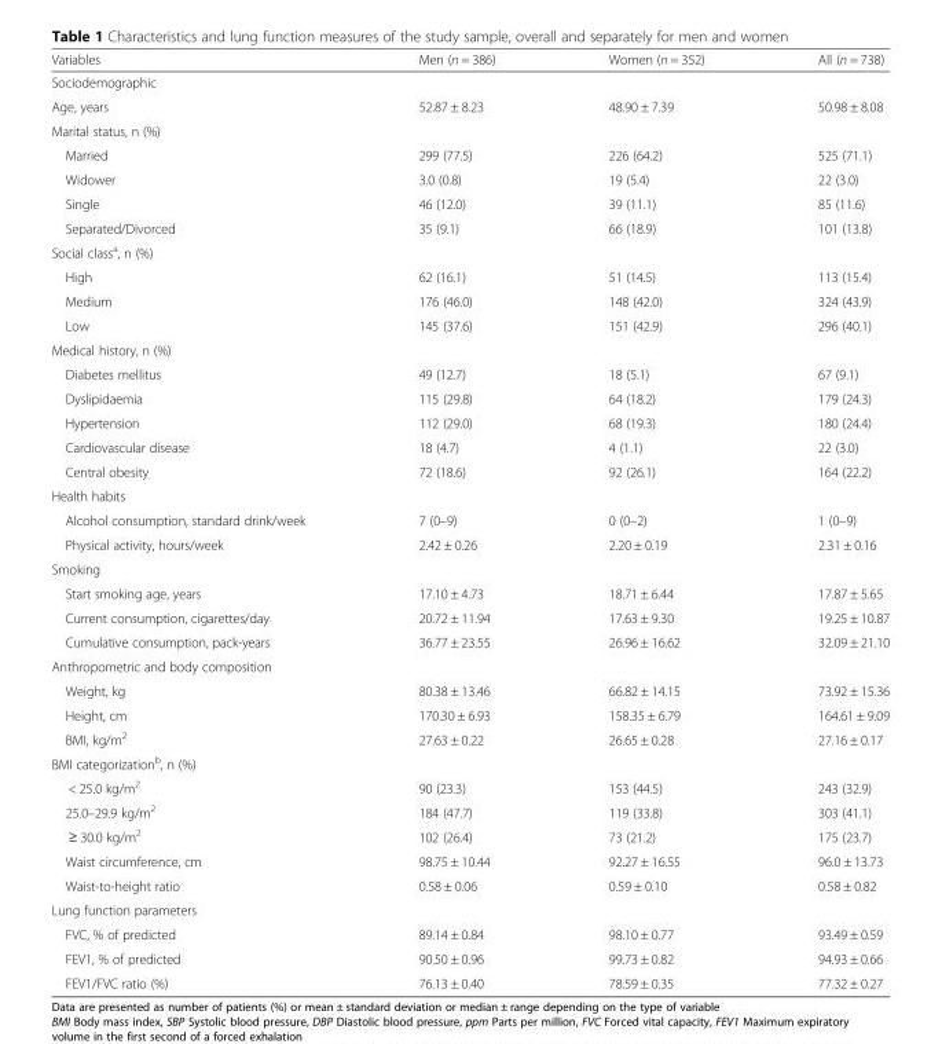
<table><thead><tr><td>Variables</td><td>Men (n = 386)</td><td>Women (n = 352)</td><td>All (n = 738)</td></tr></thead><tbody><tr><td colspan="4">Sociodemographic</td></tr><tr><td>Age, years</td><td>52.87 ± 8.23</td><td>48.90 ± 7.39</td><td>50.98 ± 8.08</td></tr><tr><td colspan="4">Marital status, n (%)</td></tr><tr><td>Married</td><td>299 (77.5)</td><td>226 (64.2)</td><td>525 (71.1)</td></tr><tr><td>Widower</td><td>3.0 (0.8)</td><td>19 (5.4)</td><td>22 (3.0)</td></tr><tr><td>Single</td><td>46 (12.0)</td><td>39 (11.1)</td><td>85 (11.6)</td></tr><tr><td>Separated/Divorced</td><td>35 (9.1)</td><td>66 (18.9)</td><td>101 (13.8)</td></tr><tr><td colspan="4">Social class<sup>a</sup>, n (%)</td></tr><tr><td>High</td><td>62 (16.1)</td><td>51 (14.5)</td><td>113 (15.4)</td></tr><tr><td>Medium</td><td>176 (46.0)</td><td>148 (42.0)</td><td>324 (43.9)</td></tr><tr><td>Low</td><td>145 (37.6)</td><td>151 (42.9)</td><td>296 (40.1)</td></tr><tr><td colspan="4">Medical history, n (%)</td></tr><tr><td>Diabetes mellitus</td><td>49 (12.7)</td><td>18 (5.1)</td><td>67 (9.1)</td></tr><tr><td>Dyslipidaemia</td><td>115 (29.8)</td><td>64 (18.2)</td><td>179 (24.3)</td></tr><tr><td>Hypertension</td><td>112 (29.0)</td><td>68 (19.3)</td><td>180 (24.4)</td></tr><tr><td>Cardiovascular disease</td><td>18 (4.7)</td><td>4 (1.1)</td><td>22 (3.0)</td></tr><tr><td>Central obesity</td><td>72 (18.6)</td><td>92 (26.1)</td><td>164 (22.2)</td></tr><tr><td colspan="4">Health habits</td></tr><tr><td>Alcohol consumption, standard drink/week</td><td>7 (0–9)</td><td>0 (0–2)</td><td>1 (0–9)</td></tr><tr><td>Physical activity, hours/week</td><td>2.42 ± 0.26</td><td>2.20 ± 0.19</td><td>2.31 ± 0.16</td></tr><tr><td colspan="4">Smoking</td></tr><tr><td>Start smoking age, years</td><td>17.10 ± 4.73</td><td>18.71 ± 6.44</td><td>17.87 ± 5.65</td></tr><tr><td>Current consumption, cigarettes/day</td><td>20.72 ± 11.94</td><td>17.63 ± 9.30</td><td>19.25 ± 10.87</td></tr><tr><td>Cumulative consumption, pack-years</td><td>36.77 ± 23.55</td><td>26.96 ± 16.62</td><td>32.09 ± 21.10</td></tr><tr><td colspan="4">Anthropometric and body composition</td></tr><tr><td>Weight, kg</td><td>80.38 ± 13.46</td><td>66.82 ± 14.15</td><td>73.92 ± 15.36</td></tr><tr><td>Height, cm</td><td>170.30 ± 6.93</td><td>158.35 ± 6.79</td><td>164.61 ± 9.09</td></tr><tr><td>BMI, kg/m<sup>2</sup></td><td>27.63 ± 0.22</td><td>26.65 ± 0.28</td><td>27.16 ± 0.17</td></tr><tr><td colspan="4">BMI categorization<sup>b</sup>, n (%)</td></tr><tr><td>&lt; 25.0 kg/m<sup>2</sup></td><td>90 (23.3)</td><td>153 (44.5)</td><td>243 (32.9)</td></tr><tr><td>25.0–29.9 kg/m<sup>2</sup></td><td>184 (47.7)</td><td>119 (33.8)</td><td>303 (41.1)</td></tr><tr><td>≥ 30.0 kg/m<sup>2</sup></td><td>102 (26.4)</td><td>73 (21.2)</td><td>175 (23.7)</td></tr><tr><td>Waist circumference, cm</td><td>98.75 ± 10.44</td><td>92.27 ± 16.55</td><td>96.0 ± 13.73</td></tr><tr><td>Waist-to-height ratio</td><td>0.58 ± 0.06</td><td>0.59 ± 0.10</td><td>0.58 ± 0.82</td></tr><tr><td colspan="4">Lung function parameters</td></tr><tr><td>FVC, % of predicted</td><td>89.14 ± 0.84</td><td>98.10 ± 0.77</td><td>93.49 ± 0.59</td></tr><tr><td>FEV1, % of predicted</td><td>90.50 ± 0.96</td><td>99.73 ± 0.82</td><td>94.93 ± 0.66</td></tr><tr><td>FEV1/FVC ratio (%)</td><td>76.13 ± 0.40</td><td>78.59 ± 0.35</td><td>77.32 ± 0.27</td></tr></tbody></table>